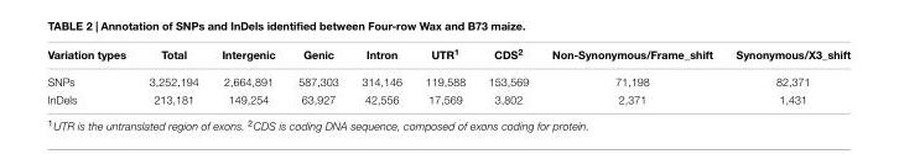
<table><thead><tr><td>Variation types</td><td>Total</td><td>Intergenic</td><td>Genic</td><td>Intron</td><td>UTR<sup>1</sup></td><td>CDS<sup>2</sup></td><td>Non-Synonymous/Frame_shift</td><td>Synonymous/X3_shift</td></tr></thead><tbody><tr><td>SNPs</td><td>3,252,194</td><td>2,664,891</td><td>587,303</td><td>314,146</td><td>119,588</td><td>153,569</td><td>71,198</td><td>82,371</td></tr><tr><td>InDels</td><td>213,181</td><td>149,254</td><td>63,927</td><td>42,556</td><td>17,569</td><td>3,802</td><td>2,371</td><td>1,431</td></tr></tbody></table>